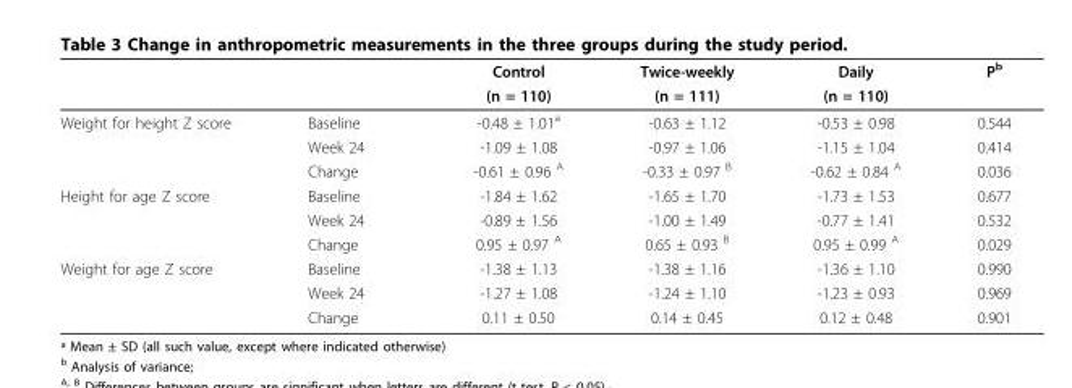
<table><thead><tr><td rowspan="2"></td><td rowspan="2"></td><td rowspan="2">Control (n = 110)</td><td rowspan="2">Twice-weekly (n = 111)</td><td rowspan="2">Daily (n = 110)</td><td rowspan="2">P<sup>b</sup></td></tr><tr></tr></thead><tbody><tr><td rowspan="3">Weight for height Z score</td><td>Baseline</td><td>-0.48 ± 1.01<sup>a</sup></td><td>-0.63 ± 1.12</td><td>-0.53 ± 0.98</td><td>0.544</td></tr><tr><td>Week 24</td><td>-1.09 ± 1.08</td><td>-0.97 ± 1.06</td><td>-1.15 ± 1.04</td><td>0.414</td></tr><tr><td>Change</td><td>-0.61 ± 0.96 <sup>A</sup></td><td>-0.33 ± 0.97 <sup>B</sup></td><td>-0.62 ± 0.84 <sup>A</sup></td><td>0.036</td></tr><tr><td rowspan="3">Height for age Z score</td><td>Baseline</td><td>-1.84 ± 1.62</td><td>-1.65 ± 1.70</td><td>-1.73 ± 1.53</td><td>0.677</td></tr><tr><td>Week 24</td><td>-0.89 ± 1.56</td><td>-1.00 ± 1.49</td><td>-0.77 ± 1.41</td><td>0.532</td></tr><tr><td>Change</td><td>0.95 ± 0.97 <sup>A</sup></td><td>0.65 ± 0.93 <sup>B</sup></td><td>0.95 ± 0.99 <sup>A</sup></td><td>0.029</td></tr><tr><td rowspan="3">Weight for age Z score</td><td>Baseline</td><td>-1.38 ± 1.13</td><td>-1.38 ± 1.16</td><td>-1.36 ± 1.10</td><td>0.990</td></tr><tr><td>Week 24</td><td>-1.27 ± 1.08</td><td>-1.24 ± 1.10</td><td>-1.23 ± 0.93</td><td>0.969</td></tr><tr><td>Change</td><td>0.11 ± 0.50</td><td>0.14 ± 0.45</td><td>0.12 ± 0.48</td><td>0.901</td></tr></tbody></table>